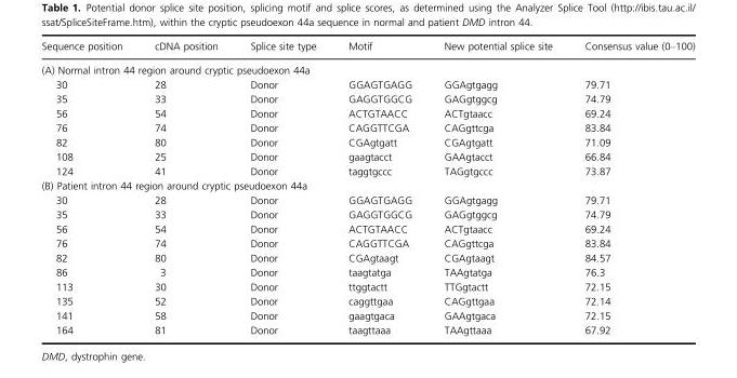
<table><thead><tr><td>Sequence position</td><td>cDNA position</td><td>Splice site type</td><td>Motif</td><td>New potential splice site</td><td>Consensus value (0–100)</td></tr></thead><tbody><tr><td colspan="6">(A) Normal intron 44 region around cryptic pseudoexon 44a</td></tr><tr><td>30</td><td>28</td><td>Donor</td><td>GGAGTGAGG</td><td>GGAgtgagg</td><td>79.71</td></tr><tr><td>35</td><td>33</td><td>Donor</td><td>GAGGTGGCG</td><td>GAGgtggcg</td><td>74.79</td></tr><tr><td>56</td><td>54</td><td>Donor</td><td>ACTGTAACC</td><td>ACTgtaacc</td><td>69.24</td></tr><tr><td>76</td><td>74</td><td>Donor</td><td>CAGGTTCGA</td><td>CAGgttcga</td><td>83.84</td></tr><tr><td>82</td><td>80</td><td>Donor</td><td>CGAgtgatt</td><td>CGAgtgatt</td><td>71.09</td></tr><tr><td>108</td><td>25</td><td>Donor</td><td>gaagtacct</td><td>GAAgtacct</td><td>66.84</td></tr><tr><td>124</td><td>41</td><td>Donor</td><td>taggtgccc</td><td>TAGgtgccc</td><td>73.87</td></tr><tr><td colspan="6">(B) Patient intron 44 region around cryptic pseudoexon 44a</td></tr><tr><td>30</td><td>28</td><td>Donor</td><td>GGAGTGAGG</td><td>GGAgtgagg</td><td>79.71</td></tr><tr><td>35</td><td>33</td><td>Donor</td><td>GAGGTGGCG</td><td>GAGgtggcg</td><td>74.79</td></tr><tr><td>56</td><td>54</td><td>Donor</td><td>ACTGTAACC</td><td>ACTgtaacc</td><td>69.24</td></tr><tr><td>76</td><td>74</td><td>Donor</td><td>CAGGTTCGA</td><td>CAGgttcga</td><td>83.84</td></tr><tr><td>82</td><td>80</td><td>Donor</td><td>CGAgtaagt</td><td>CGAgtaagt</td><td>84.57</td></tr><tr><td>86</td><td>3</td><td>Donor</td><td>taagtatga</td><td>TAAgtatga</td><td>76.3</td></tr><tr><td>113</td><td>30</td><td>Donor</td><td>ttggtactt</td><td>TTGgtactt</td><td>72.15</td></tr><tr><td>135</td><td>52</td><td>Donor</td><td>caggttgaa</td><td>CAGgttgaa</td><td>72.14</td></tr><tr><td>141</td><td>58</td><td>Donor</td><td>gaagtgaca</td><td>GAAgtgaca</td><td>72.15</td></tr><tr><td>164</td><td>81</td><td>Donor</td><td>taagttaaa</td><td>TAAgttaaa</td><td>67.92</td></tr></tbody></table>